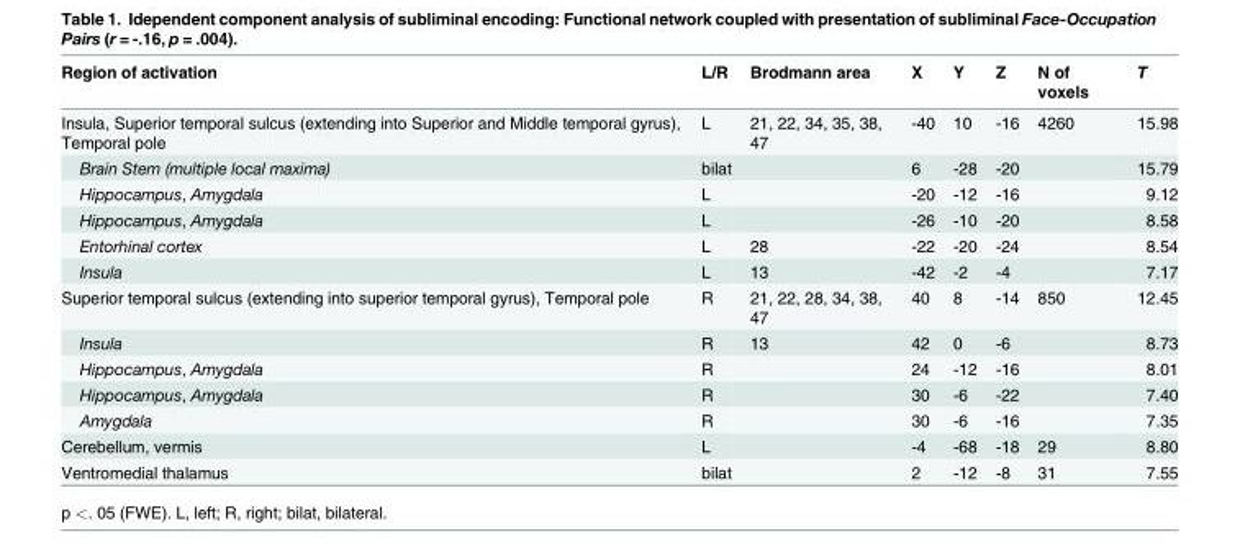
<table><thead><tr><td>Region of activation</td><td>L/R</td><td>Brodmann area</td><td>X</td><td>Y</td><td>Z</td><td>N of voxels</td><td>T</td></tr></thead><tbody><tr><td>Insula, Superior temporal sulcus (extending into Superior and Middle temporal gyrus), Temporal pole</td><td>L</td><td>21, 22, 34, 35, 38, 47</td><td>-40</td><td>10</td><td>-16</td><td>4260</td><td>15.98</td></tr><tr><td>Brain Stem (multiple local maxima)</td><td>bilat</td><td></td><td>6</td><td>-28</td><td>-20</td><td></td><td>15.79</td></tr><tr><td>Hippocampus, Amygdala</td><td>L</td><td></td><td>-20</td><td>-12</td><td>-16</td><td></td><td>9.12</td></tr><tr><td>Hippocampus, Amygdala</td><td>L</td><td></td><td>-26</td><td>-10</td><td>-20</td><td></td><td>8.58</td></tr><tr><td>Entorhinal cortex</td><td>L</td><td>28</td><td>-22</td><td>-20</td><td>-24</td><td></td><td>8.54</td></tr><tr><td>Insula</td><td>L</td><td>13</td><td>-42</td><td>-2</td><td>-4</td><td></td><td>7.17</td></tr><tr><td>Superior temporal sulcus (extending into superior temporal gyrus), Temporal pole</td><td>R</td><td>21, 22, 28, 34, 38, 47</td><td>40</td><td>8</td><td>-14</td><td>850</td><td>12.45</td></tr><tr><td>Insula</td><td>R</td><td>13</td><td>42</td><td>0</td><td>-6</td><td></td><td>8.73</td></tr><tr><td>Hippocampus, Amygdala</td><td>R</td><td></td><td>24</td><td>-12</td><td>-16</td><td></td><td>8.01</td></tr><tr><td>Hippocampus, Amygdala</td><td>R</td><td></td><td>30</td><td>-6</td><td>-22</td><td></td><td>7.40</td></tr><tr><td>Amygdala</td><td>R</td><td></td><td>30</td><td>-6</td><td>-16</td><td></td><td>7.35</td></tr><tr><td>Cerebellum, vermis</td><td>L</td><td></td><td>-4</td><td>-68</td><td>-18</td><td>29</td><td>8.80</td></tr><tr><td>Ventromedial thalamus</td><td>bilat</td><td></td><td>2</td><td>-12</td><td>-8</td><td>31</td><td>7.55</td></tr></tbody></table>